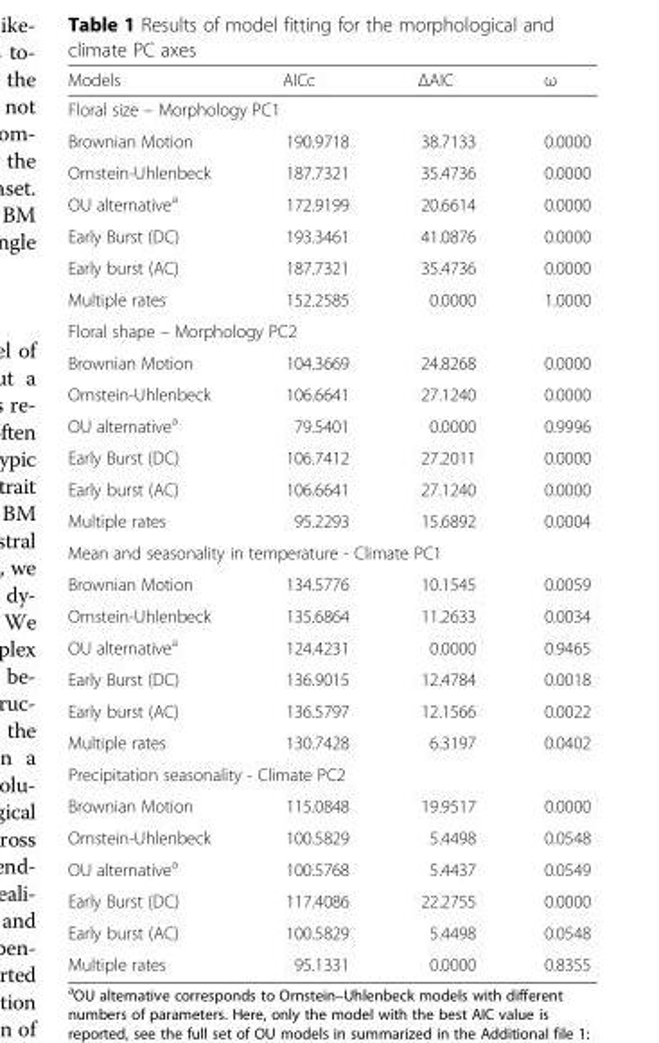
<table><thead><tr><td>Models</td><td>AICc</td><td>ΔAIC</td><td>ω</td></tr></thead><tbody><tr><td colspan="4">Floral size – Morphology PC1</td></tr><tr><td>Brownian Motion</td><td>190.9718</td><td>38.7133</td><td>0.0000</td></tr><tr><td>Ornstein-Uhlenbeck</td><td>187.7321</td><td>35.4736</td><td>0.0000</td></tr><tr><td>OU alternative<sup>a</sup></td><td>172.9199</td><td>20.6614</td><td>0.0000</td></tr><tr><td>Early Burst (DC)</td><td>193.3461</td><td>41.0876</td><td>0.0000</td></tr><tr><td>Early burst (AC)</td><td>187.7321</td><td>35.4736</td><td>0.0000</td></tr><tr><td>Multiple rates</td><td>152.2585</td><td>0.0000</td><td>1.0000</td></tr><tr><td colspan="4">Floral shape – Morphology PC2</td></tr><tr><td>Brownian Motion</td><td>104.3669</td><td>24.8268</td><td>0.0000</td></tr><tr><td>Ornstein-Uhlenbeck</td><td>106.6641</td><td>27.1240</td><td>0.0000</td></tr><tr><td>OU alternative<sup>a</sup></td><td>79.5401</td><td>0.0000</td><td>0.9996</td></tr><tr><td>Early Burst (DC)</td><td>106.7412</td><td>27.2011</td><td>0.0000</td></tr><tr><td>Early burst (AC)</td><td>106.6641</td><td>27.1240</td><td>0.0000</td></tr><tr><td>Multiple rates</td><td>95.2293</td><td>15.6892</td><td>0.0004</td></tr><tr><td colspan="4">Mean and seasonality in temperature - Climate PC1</td></tr><tr><td>Brownian Motion</td><td>134.5776</td><td>10.1545</td><td>0.0059</td></tr><tr><td>Ornstein-Uhlenbeck</td><td>135.6864</td><td>11.2633</td><td>0.0034</td></tr><tr><td>OU alternative<sup>a</sup></td><td>124.4231</td><td>0.0000</td><td>0.9465</td></tr><tr><td>Early Burst (DC)</td><td>136.9015</td><td>12.4784</td><td>0.0018</td></tr><tr><td>Early burst (AC)</td><td>136.5797</td><td>12.1566</td><td>0.0022</td></tr><tr><td>Multiple rates</td><td>130.7428</td><td>6.3197</td><td>0.0402</td></tr><tr><td colspan="4">Precipitation seasonality - Climate PC2</td></tr><tr><td>Brownian Motion</td><td>115.0848</td><td>19.9517</td><td>0.0000</td></tr><tr><td>Ornstein-Uhlenbeck</td><td>100.5829</td><td>5.4498</td><td>0.0548</td></tr><tr><td>OU alternative<sup>a</sup></td><td>100.5768</td><td>5.4437</td><td>0.0549</td></tr><tr><td>Early Burst (DC)</td><td>117.4086</td><td>22.2755</td><td>0.0000</td></tr><tr><td>Early burst (AC)</td><td>100.5829</td><td>5.4498</td><td>0.0548</td></tr><tr><td>Multiple rates</td><td>95.1331</td><td>0.0000</td><td>0.8355</td></tr></tbody></table>